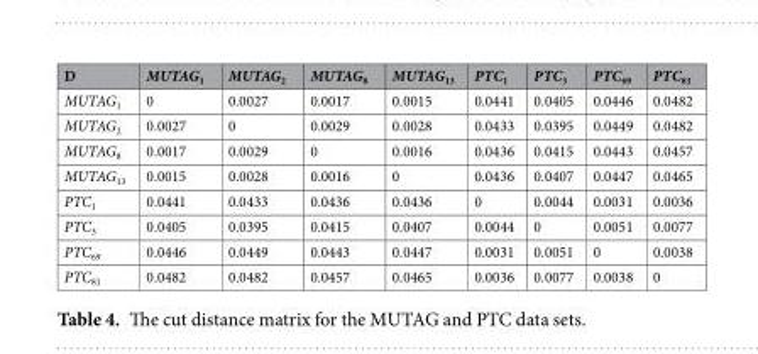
<table><thead><tr><td>D</td><td>MUTAG<sub>1</sub></td><td>MUTAG<sub>2</sub></td><td>MUTAG<sub>8</sub></td><td>MUTAG<sub>13</sub></td><td>PTC<sub>1</sub></td><td>PTC<sub>3</sub></td><td>PTC<sub>69</sub></td><td>PTC<sub>81</sub></td></tr></thead><tbody><tr><td>MUTAG<sub>1</sub></td><td>0</td><td>0.0027</td><td>0.0017</td><td>0.0015</td><td>0.0441</td><td>0.0405</td><td>0.0446</td><td>0.0482</td></tr><tr><td>MUTAG<sub>2</sub></td><td>0.0027</td><td>0</td><td>0.0029</td><td>0.0028</td><td>0.0433</td><td>0.0395</td><td>0.0449</td><td>0.0482</td></tr><tr><td>MUTAG<sub>8</sub></td><td>0.0017</td><td>0.0029</td><td>0</td><td>0.0016</td><td>0.0436</td><td>0.0415</td><td>0.0443</td><td>0.0457</td></tr><tr><td>MUTAG<sub>13</sub></td><td>0.0015</td><td>0.0028</td><td>0.0016</td><td>0</td><td>0.0436</td><td>0.0407</td><td>0.0447</td><td>0.0465</td></tr><tr><td>PTC<sub>1</sub></td><td>0.0441</td><td>0.0433</td><td>0.0436</td><td>0.0436</td><td>0</td><td>0.0044</td><td>0.0031</td><td>0.0036</td></tr><tr><td>PTC<sub>3</sub></td><td>0.0405</td><td>0.0395</td><td>0.0415</td><td>0.0407</td><td>0.0044</td><td>0</td><td>0.0051</td><td>0.0077</td></tr><tr><td>PTC<sub>69</sub></td><td>0.0446</td><td>0.0449</td><td>0.0443</td><td>0.0447</td><td>0.0031</td><td>0.0051</td><td>0</td><td>0.0038</td></tr><tr><td>PTC<sub>81</sub></td><td>0.0482</td><td>0.0482</td><td>0.0457</td><td>0.0465</td><td>0.0036</td><td>0.0077</td><td>0.0038</td><td>0</td></tr></tbody></table>